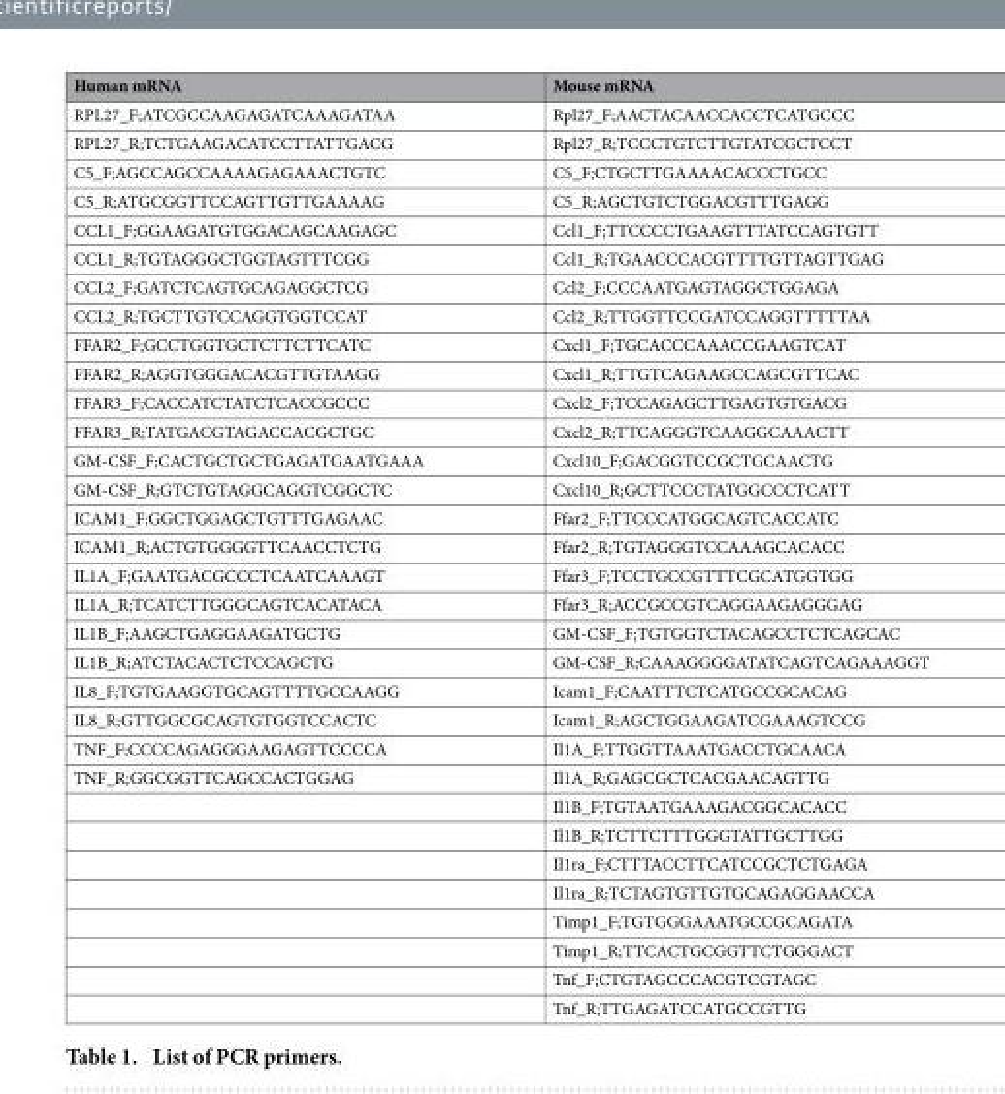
<table><thead><tr><td>Human mRNA</td><td>Mouse mRNA</td></tr></thead><tbody><tr><td>RPL27_F;ATCGCCAAGAGATCAAAGATAA</td><td>Rpl27_F;AACTACAACCACCTCATGCCC</td></tr><tr><td>RPL27_R;TCTGAAGACATCCTTATTGACG</td><td>Rpl27_R;TCCCTGTCTTGTATCGCTCCT</td></tr><tr><td>C5_F;AGCCAGCCAAAAGAGAAACTGTC</td><td>C5_F;CTGCTTGAAAACACCCTGCC</td></tr><tr><td>C5_R;ATGCGGTTCCAGTTGTTGAAAAG</td><td>C5_R;AGCTGTCTGGACGTTTGAGG</td></tr><tr><td>CCL1_F;GGAAGATGTGGACAGCAAGAGC</td><td>Ccl1_F;TTCCCCTGAAGTTTATCCAGTGTT</td></tr><tr><td>CCL1_R;TGTAGGGCTGGTAGTTTCGG</td><td>Ccl1_R;TGAACCCACGTTTTGTTAGTTGAG</td></tr><tr><td>CCL2_F;GATCTCAGTGCAGAGGCTCG</td><td>Ccl2_F;CCCAATGAGTAGGCTGGAGA</td></tr><tr><td>CCL2_R;TGCTTGTCCAGGTGGTCCAT</td><td>Ccl2_R;TTGGTTCCGATCCAGGTTTTTAA</td></tr><tr><td>FFAR2_F;GCCTGGTGCTCTTCTTCATC</td><td>Cxcl1_F;TGCACCCAAACCGAAGTCAT</td></tr><tr><td>FFAR2_R;AGGTGGGACACGTTGTAAGG</td><td>Cxcl1_R;TTGTCAGAAGCCAGCGTTCAC</td></tr><tr><td>FFAR3_F;CACCATCTATCTCACCGCCC</td><td>Cxcl2_F;TCCAGAGCTTGAGTGTGACG</td></tr><tr><td>FFAR3_R;TATGACGTAGACCACGCTGC</td><td>Cxcl2_R;TTCAGGGTCAAGGCAAACTT</td></tr><tr><td>GM-CSF_F;CACTGCTGCTGAGATGAATGAAA</td><td>Cxcl10_F;GACGGTCCGCTGCAACTG</td></tr><tr><td>GM-CSF_R;GTCTGTAGGCAGGTCGGCTC</td><td>Cxcl10_R;GCTTCCCTATGGCCCTCATT</td></tr><tr><td>ICAM1_F;GGCTGGAGCTGTTTGAGAAC</td><td>Ffar2_F;TTCCCATGGCAGTCACCATC</td></tr><tr><td>ICAM1_R;ACTGTGGGGTTCAACCTCTG</td><td>Ffar2_R;TGTAGGGTCCAAAGCACACC</td></tr><tr><td>IL1A_F;GAATGACGCCCTCAATCAAAGT</td><td>Ffar3_F;TCCTGCCGTTTCGCATGGTGG</td></tr><tr><td>IL1A_R;TCATCTTGGGCAGTCACATACA</td><td>Ffar3_R;ACCGCCGTCAGGAAGAGGGAG</td></tr><tr><td>IL1B_F;AAGCTGAGGAAGATGCTG</td><td>GM-CSF_F;TGTGGTCTACAGCCTCTCAGCAC</td></tr><tr><td>IL1B_R;ATCTACACTCTCCAGCTG</td><td>GM-CSF_R;CAAAGGGGATATCAGTCAGAAAGGT</td></tr><tr><td>IL8_F;TGTGAAGGTGCAGTTTTGCCAAGG</td><td>Icam1_F;CAATTTCTCATGCCGCACAG</td></tr><tr><td>IL8_R;GTTGGCGCAGTGTGGTCCACTC</td><td>Icam1_R;AGCTGGAAGATCGAAAGTCCG</td></tr><tr><td>TNF_F;CCCCAGAGGGAAGAGTTCCCCA</td><td>Il1A_F;TTGGTTAAATGACCTGCAACA</td></tr><tr><td rowspan="9">TNF_R;GGCGGTTCAGCCACTGGAG</td><td>Il1A_R;GAGCGCTCACGAACAGTTG</td></tr><tr><td>Il1B_F;TGTAATGAAAGACGGCACACC</td></tr><tr><td>Il1B_R;TCTTCTTTGGGTATTGCTTGG</td></tr><tr><td>Il1ra_F;CTTTACCTTCATCCGCTCTGAGA</td></tr><tr><td>Il1ra_R;TCTAGTGTTGTGCAGAGGAACCA</td></tr><tr><td>Timp1_F;TGTGGGAAATGCCGCAGATA</td></tr><tr><td>Timp1_R;TTCACTGCGGTTCTGGGACT</td></tr><tr><td>Tnf_F;CTGTAGCCCACGTCGTAGC</td></tr><tr><td>Tnf_R;TTGAGATCCATGCCGTTG</td></tr></tbody></table>